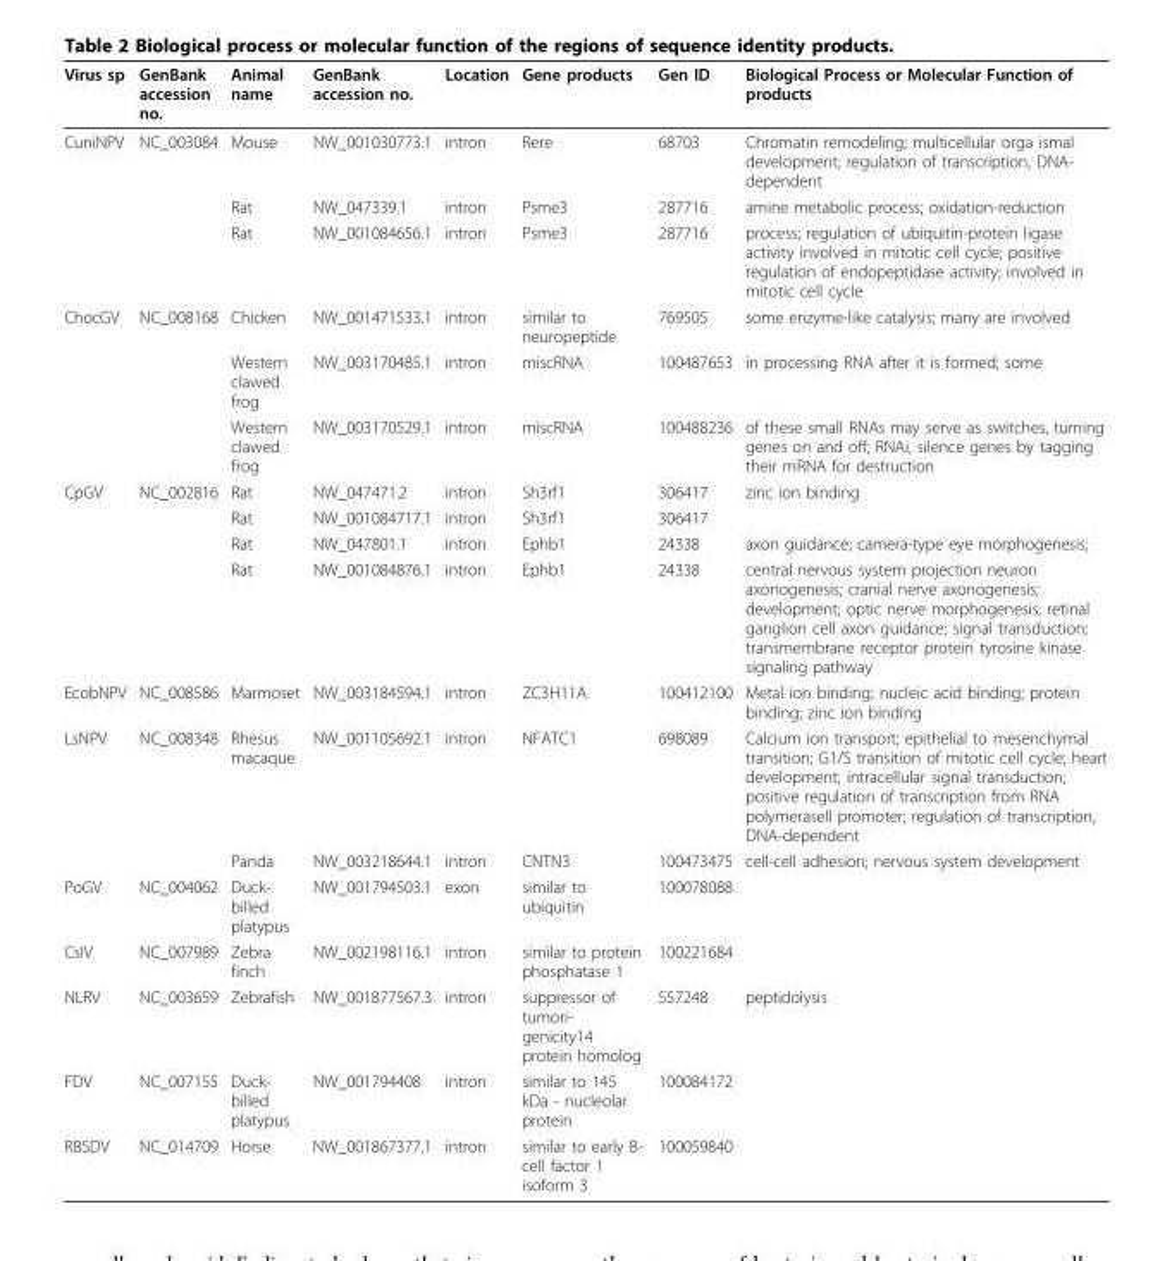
<table><thead><tr><td>Virus sp</td><td>GenBank accession no.</td><td>Animal name</td><td>GenBank accession no.</td><td>Location</td><td>Gene products</td><td>Gen ID</td><td>Biological Process or Molecular Function of products</td></tr></thead><tbody><tr><td rowspan="3">CuniNPV</td><td>NC_003084</td><td>Mouse</td><td>NW_001030773.1</td><td>intron</td><td>Rere</td><td>68703</td><td>Chromatin remodeling; multicellular orga ismal development; regulation of transcription, DNA- dependent</td></tr><tr><td></td><td>Rat</td><td>NW_047339.1</td><td>intron</td><td>Psme3</td><td>287716</td><td>amine metabolic process; oxidation-reduction</td></tr><tr><td></td><td>Rat</td><td>NW_001084656.1</td><td>intron</td><td>Psme3</td><td>287716</td><td>process; regulation of ubiquitin-protein ligase activity involved in mitotic cell cycle; positive regulation of endopeptidase activity; involved in mitotic cell cycle</td></tr><tr><td rowspan="3">ChocGV</td><td>NC_008168</td><td>Chicken</td><td>NW_001471533.1</td><td>intron</td><td>similar to neuropeptide</td><td>769505</td><td>some enzyme-like catalysis; many are involved</td></tr><tr><td></td><td>Western clawed frog</td><td>NW_003170485.1</td><td>intron</td><td>miscRNA</td><td>100487653</td><td>in processing RNA after it is formed; some</td></tr><tr><td></td><td>Western clawed frog</td><td>NW_003170529.1</td><td>intron</td><td>miscRNA</td><td>100488236</td><td>of these small RNAs may serve as switches, turning genes on and off; RNAi, silence genes by tagging their mRNA for destruction</td></tr><tr><td rowspan="4">CpGV</td><td>NC_002816</td><td>Rat</td><td>NW_047471.2</td><td>intron</td><td>Sh3rf1</td><td>306417</td><td>zinc ion binding</td></tr><tr><td></td><td>Rat</td><td>NW_001084717.1</td><td>intron</td><td>Sh3rf1</td><td>306417</td><td></td></tr><tr><td></td><td>Rat</td><td>NW_047801.1</td><td>intron</td><td>Ephb1</td><td>24338</td><td>axon guidance; camera-type eye morphogenesis;</td></tr><tr><td></td><td>Rat</td><td>NW_001084876.1</td><td>intron</td><td>Ephb1</td><td>24338</td><td>central nervous system projection neuron axonogenesis; cranial nerve axonogenesis; development; optic nerve morphogenesis; retinal ganglion cell axon guidance; signal transduction; transmembrane receptor protein tyrosine kinase signaling pathway</td></tr><tr><td>EcobNPV</td><td>NC_008586</td><td>Marmoset</td><td>NW_003184594.1</td><td>intron</td><td>ZC3H11A</td><td>100412100</td><td>Metal ion binding; nucleic acid binding; protein binding; zinc ion binding</td></tr><tr><td rowspan="2">LsNPV</td><td>NC_008348</td><td>Rhesus macaque</td><td>NW_001105692.1</td><td>intron</td><td>NFATC1</td><td>698089</td><td>Calcium ion transport; epithelial to mesenchymal transition; G1/S transition of mitotic cell cycle; heart development; intracellular signal transduction; positive regulation of transcription from RNA polymeraseII promoter; regulation of transcription, DNA-dependent</td></tr><tr><td></td><td>Panda</td><td>NW_003218644.1</td><td>intron</td><td>CNTN3</td><td>100473475</td><td>cell-cell adhesion; nervous system development</td></tr><tr><td>PoGV</td><td>NC_004062</td><td>Duck- billed platypus</td><td>NW_001794503.1</td><td>exon</td><td>similar to ubiquitin</td><td>100078088</td><td></td></tr><tr><td>CsIV</td><td>NC_007989</td><td>Zebra finch</td><td>NW_002198116.1</td><td>intron</td><td>similar to protein phosphatase 1</td><td>100221684</td><td></td></tr><tr><td>NLRV</td><td>NC_003659</td><td>Zebrafish</td><td>NW_001877567.3</td><td>intron</td><td>suppressor of tumori- genicity14 protein homolog</td><td>557248</td><td>peptidolysis</td></tr><tr><td>FDV</td><td>NC_007155</td><td>Duck- billed platypus</td><td>NW_001794408</td><td>intron</td><td>similar to 145 kDa - nucleolar protein</td><td>100084172</td><td></td></tr><tr><td>RBSDV</td><td>NC_014709</td><td>Horse</td><td>NW_001867377.1</td><td>intron</td><td>similar to early B- cell factor 1 isoform 3</td><td>100059840</td><td></td></tr></tbody></table>